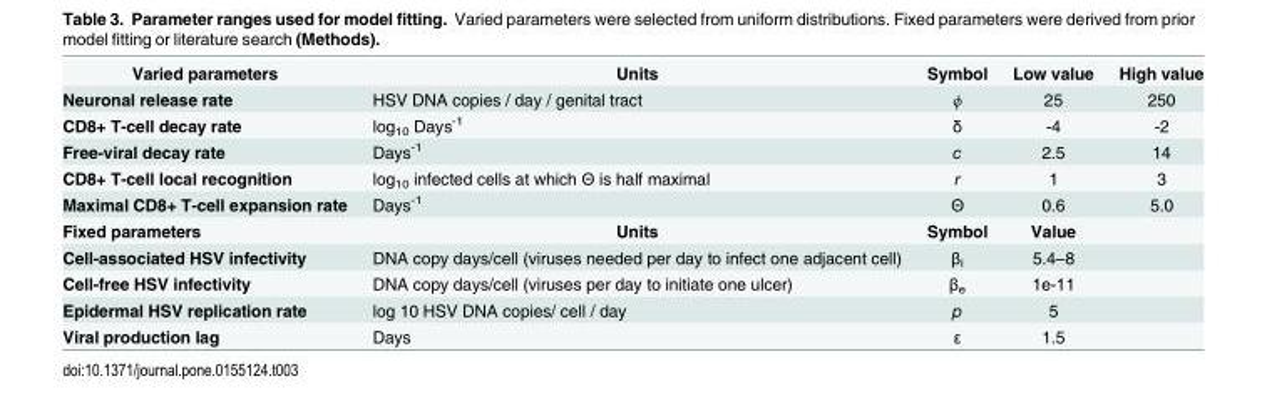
<table><tbody><tr><td>Varied parameters</td><td>Units</td><td>Symbol</td><td>Low value</td><td>High value</td></tr><tr><td>Neuronal release rate</td><td>HSV DNA copies / day / genital tract</td><td>ϕ</td><td>25</td><td>250</td></tr><tr><td>CD8+ T-cell decay rate</td><td>log<sub>10</sub> Days<sup>-1</sup></td><td>δ</td><td>-4</td><td>-2</td></tr><tr><td>Free-viral decay rate</td><td>Days<sup>-1</sup></td><td>c</td><td>2.5</td><td>14</td></tr><tr><td>CD8+ T-cell local recognition</td><td>log<sub>10</sub> infected cells at which Θ is half maximal</td><td>r</td><td>1</td><td>3</td></tr><tr><td>Maximal CD8+ T-cell expansion rate</td><td>Days<sup>-1</sup></td><td>Θ</td><td>0.6</td><td>5.0</td></tr><tr><td>Fixed parameters</td><td>Units</td><td>Symbol</td><td>Value</td><td></td></tr><tr><td>Cell-associated HSV infectivity</td><td>DNA copy days/cell (viruses needed per day to infect one adjacent cell)</td><td>β<sub>i</sub></td><td>5.4–8</td><td></td></tr><tr><td>Cell-free HSV infectivity</td><td>DNA copy days/cell (viruses per day to initiate one ulcer)</td><td>β<sub>e</sub></td><td>1e-11</td><td></td></tr><tr><td>Epidermal HSV replication rate</td><td>log 10 HSV DNA copies/ cell / day</td><td>p</td><td>5</td><td></td></tr><tr><td>Viral production lag</td><td>Days</td><td>ε</td><td>1.5</td><td></td></tr></tbody></table>